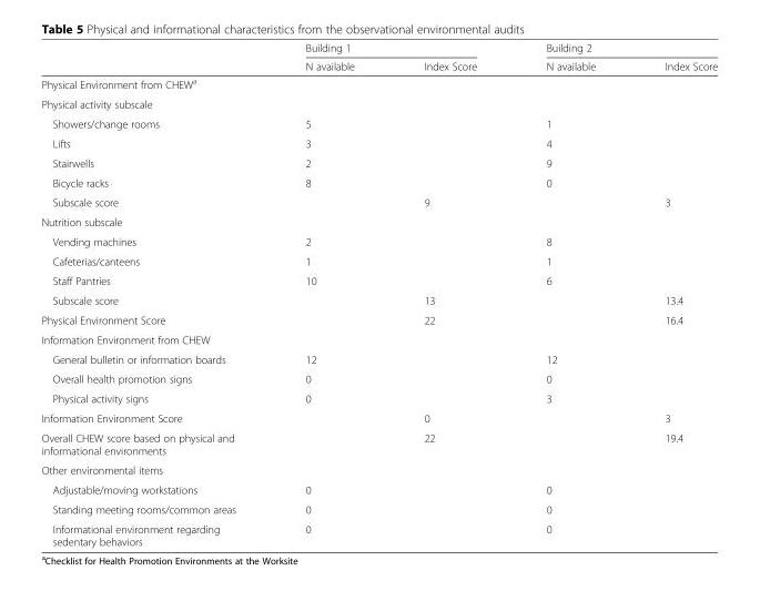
<table><thead><tr><td rowspan="2"></td><td colspan="2">Building 1</td><td colspan="2">Building 2</td></tr><tr><td>N available</td><td>Index Score</td><td>N available</td><td>Index Score</td></tr></thead><tbody><tr><td colspan="5">Physical Environment from CHEW<sup>a</sup></td></tr><tr><td colspan="5">Physical activity subscale</td></tr><tr><td>Showers/change rooms</td><td>5</td><td></td><td>1</td><td></td></tr><tr><td>Lifts</td><td>3</td><td></td><td>4</td><td></td></tr><tr><td>Stairwells</td><td>2</td><td></td><td>9</td><td></td></tr><tr><td>Bicycle racks</td><td>8</td><td></td><td>0</td><td></td></tr><tr><td>Subscale score</td><td></td><td>9</td><td></td><td>3</td></tr><tr><td colspan="5">Nutrition subscale</td></tr><tr><td>Vending machines</td><td>2</td><td></td><td>8</td><td></td></tr><tr><td>Cafeterias/canteens</td><td>1</td><td></td><td>1</td><td></td></tr><tr><td>Staff Pantries</td><td>10</td><td></td><td>6</td><td></td></tr><tr><td>Subscale score</td><td></td><td>13</td><td></td><td>13.4</td></tr><tr><td>Physical Environment Score</td><td></td><td>22</td><td></td><td>16.4</td></tr><tr><td colspan="5">Information Environment from CHEW</td></tr><tr><td>General bulletin or information boards</td><td>12</td><td></td><td>12</td><td></td></tr><tr><td>Overall health promotion signs</td><td>0</td><td></td><td>0</td><td></td></tr><tr><td>Physical activity signs</td><td>0</td><td></td><td>3</td><td></td></tr><tr><td>Information Environment Score</td><td></td><td>0</td><td></td><td>3</td></tr><tr><td>Overall CHEW score based on physical and informational environments</td><td></td><td>22</td><td></td><td>19.4</td></tr><tr><td colspan="5">Other environmental items</td></tr><tr><td>Adjustable/moving workstations</td><td>0</td><td></td><td>0</td><td></td></tr><tr><td>Standing meeting rooms/common areas</td><td>0</td><td></td><td>0</td><td></td></tr><tr><td>Informational environment regarding sedentary behaviors</td><td>0</td><td></td><td>0</td><td></td></tr></tbody></table>